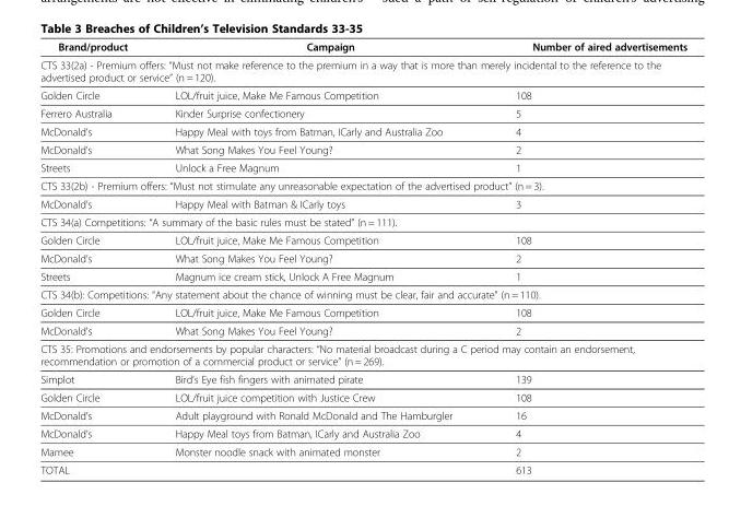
<table><thead><tr><td>Brand/product</td><td>Campaign</td><td>Number of aired advertisements</td></tr></thead><tbody><tr><td colspan="3">CTS 33(2a) - Premium offers: “Must not make reference to the premium in a way that is more than merely incidental to the reference to the advertised product or service” (n = 120).</td></tr><tr><td>Golden Circle</td><td>LOL/fruit juice, Make Me Famous Competition</td><td>108</td></tr><tr><td>Ferrero Australia</td><td>Kinder Surprise confectionery</td><td>5</td></tr><tr><td>McDonald’s</td><td>Happy Meal with toys from Batman, ICarly and Australia Zoo</td><td>4</td></tr><tr><td>McDonald’s</td><td>What Song Makes You Feel Young?</td><td>2</td></tr><tr><td>Streets</td><td>Unlock a Free Magnum</td><td>1</td></tr><tr><td colspan="3">CTS 33(2b) - Premium offers: “Must not stimulate any unreasonable expectation of the advertised product” (n = 3).</td></tr><tr><td>McDonald’s</td><td>Happy Meal with Batman &amp; ICarly toys</td><td>3</td></tr><tr><td colspan="3">CTS 34(a) Competitions: “A summary of the basic rules must be stated” (n = 111).</td></tr><tr><td>Golden Circle</td><td>LOL/fruit juice, Make Me Famous Competition</td><td>108</td></tr><tr><td>McDonald’s</td><td>What Song Makes You Feel Young?</td><td>2</td></tr><tr><td>Streets</td><td>Magnum ice cream stick, Unlock A Free Magnum</td><td>1</td></tr><tr><td colspan="3">CTS 34(b): Competitions: “Any statement about the chance of winning must be clear, fair and accurate” (n = 110).</td></tr><tr><td>Golden Circle</td><td>LOL/fruit juice, Make Me Famous Competition</td><td>108</td></tr><tr><td>McDonald&#x27;s</td><td>What Song Makes You Feel Young?</td><td>2</td></tr><tr><td colspan="3">CTS 35: Promotions and endorsements by popular characters: “No material broadcast during a C period may contain an endorsement, recommendation or promotion of a commercial product or service” (n = 269).</td></tr><tr><td>Simplot</td><td>Bird’s Eye fish fingers with animated pirate</td><td>139</td></tr><tr><td>Golden Circle</td><td>LOL/fruit juice competition with Justice Crew</td><td>108</td></tr><tr><td>McDonald’s</td><td>Adult playground with Ronald McDonald and The Hamburgler</td><td>16</td></tr><tr><td>McDonald’s</td><td>Happy Meal toys from Batman, ICarly and Australia Zoo</td><td>4</td></tr><tr><td>Mamee</td><td>Monster noodle snack with animated monster</td><td>2</td></tr><tr><td colspan="2">TOTAL</td><td>613</td></tr></tbody></table>